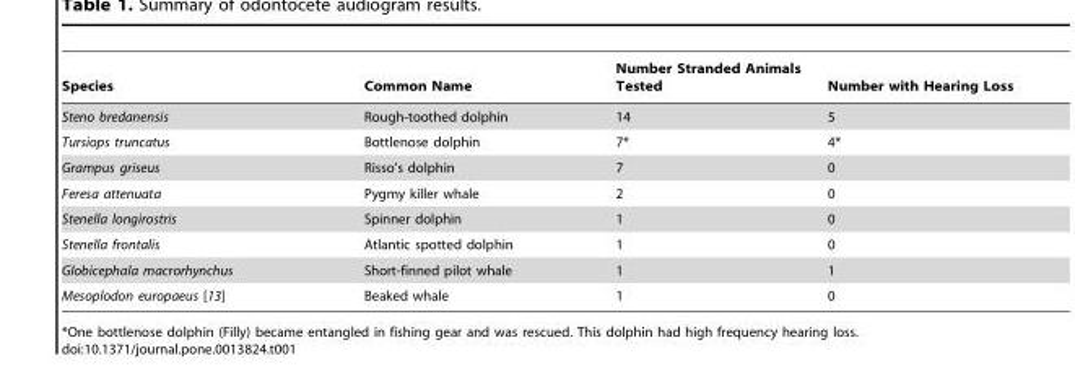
<table><thead><tr><td>Species</td><td>Common Name</td><td>Number Stranded Animals Tested</td><td>Number with Hearing Loss</td></tr></thead><tbody><tr><td>Steno bredanensis</td><td>Rough-toothed dolphin</td><td>14</td><td>5</td></tr><tr><td>Tursiops truncatus</td><td>Bottlenose dolphin</td><td>7*</td><td>4*</td></tr><tr><td>Grampus griseus</td><td>Risso’s dolphin</td><td>7</td><td>0</td></tr><tr><td>Feresa attenuata</td><td>Pygmy killer whale</td><td>2</td><td>0</td></tr><tr><td>Stenella longirostris</td><td>Spinner dolphin</td><td>1</td><td>0</td></tr><tr><td>Stenella frontalis</td><td>Atlantic spotted dolphin</td><td>1</td><td>0</td></tr><tr><td>Globicephala macrorhynchus</td><td>Short-finned pilot whale</td><td>1</td><td>1</td></tr><tr><td>Mesoplodon europaeus [13]</td><td>Beaked whale</td><td>1</td><td>0</td></tr></tbody></table>